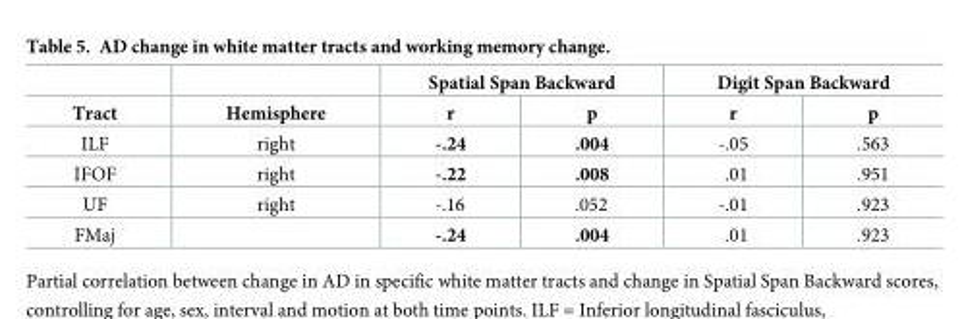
<table><thead><tr><td rowspan="2">Tract</td><td rowspan="2">Hemisphere</td><td colspan="2">Spatial Span Backward</td><td colspan="2">Digit Span Backward</td></tr><tr><td>r</td><td>p</td><td>r</td><td>p</td></tr></thead><tbody><tr><td>ILF</td><td>right</td><td>-.24</td><td>.004</td><td>-.05</td><td>.563</td></tr><tr><td>IFOF</td><td>right</td><td>-.22</td><td>.008</td><td>.01</td><td>.951</td></tr><tr><td>UF</td><td>right</td><td>-.16</td><td>.052</td><td>-.01</td><td>.923</td></tr><tr><td>FMaj</td><td></td><td>-.24</td><td>.004</td><td>.01</td><td>.923</td></tr></tbody></table>